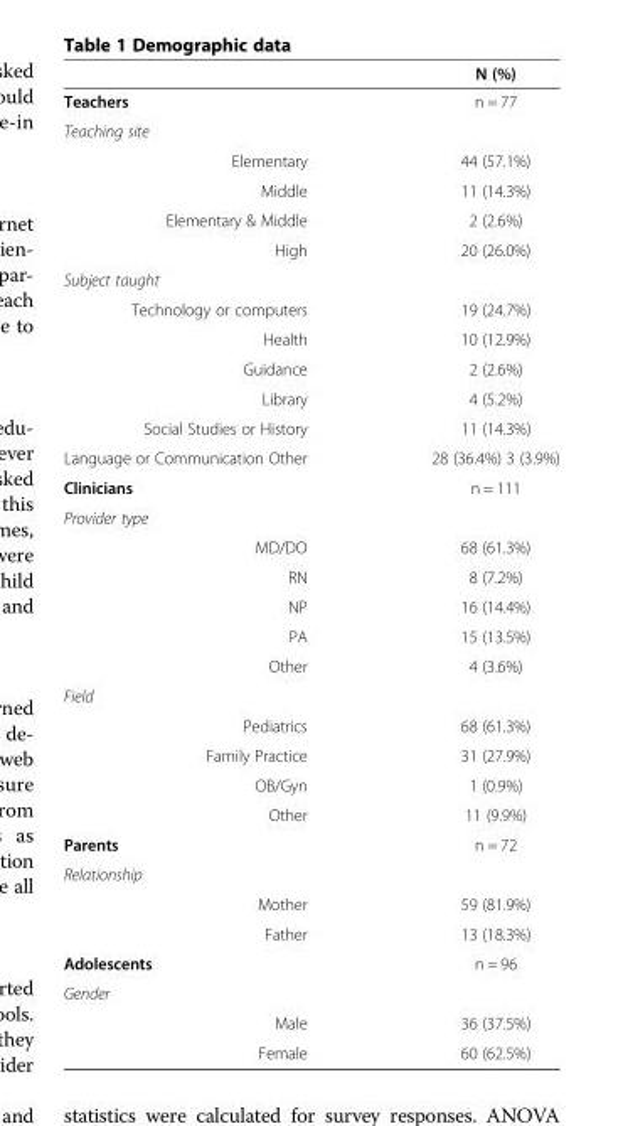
<table><thead><tr><td></td><td>N (%)</td></tr></thead><tbody><tr><td>Teachers</td><td>n = 77</td></tr><tr><td colspan="2">Teaching site</td></tr><tr><td>Elementary</td><td>44 (57.1%)</td></tr><tr><td>Middle</td><td>11 (14.3%)</td></tr><tr><td>Elementary &amp; Middle</td><td>2 (2.6%)</td></tr><tr><td>High</td><td>20 (26.0%)</td></tr><tr><td colspan="2">Subject taught</td></tr><tr><td>Technology or computers</td><td>19 (24.7%)</td></tr><tr><td>Health</td><td>10 (12.9%)</td></tr><tr><td>Guidance</td><td>2 (2.6%)</td></tr><tr><td>Library</td><td>4 (5.2%)</td></tr><tr><td>Social Studies or History</td><td>11 (14.3%)</td></tr><tr><td>Language or Communication Other</td><td>28 (36.4%) 3 (3.9%)</td></tr><tr><td>Clinicians</td><td>n = 111</td></tr><tr><td colspan="2">Provider type</td></tr><tr><td>MD/DO</td><td>68 (61.3%)</td></tr><tr><td>RN</td><td>8 (7.2%)</td></tr><tr><td>NP</td><td>16 (14.4%)</td></tr><tr><td>PA</td><td>15 (13.5%)</td></tr><tr><td>Other</td><td>4 (3.6%)</td></tr><tr><td colspan="2">Field</td></tr><tr><td>Pediatrics</td><td>68 (61.3%)</td></tr><tr><td>Family Practice</td><td>31 (27.9%)</td></tr><tr><td>OB/Gyn</td><td>1 (0.9%)</td></tr><tr><td>Other</td><td>11 (9.9%)</td></tr><tr><td>Parents</td><td>n = 72</td></tr><tr><td colspan="2">Relationship</td></tr><tr><td>Mother</td><td>59 (81.9%)</td></tr><tr><td>Father</td><td>13 (18.3%)</td></tr><tr><td>Adolescents</td><td>n = 96</td></tr><tr><td colspan="2">Gender</td></tr><tr><td>Male</td><td>36 (37.5%)</td></tr><tr><td>Female</td><td>60 (62.5%)</td></tr></tbody></table>